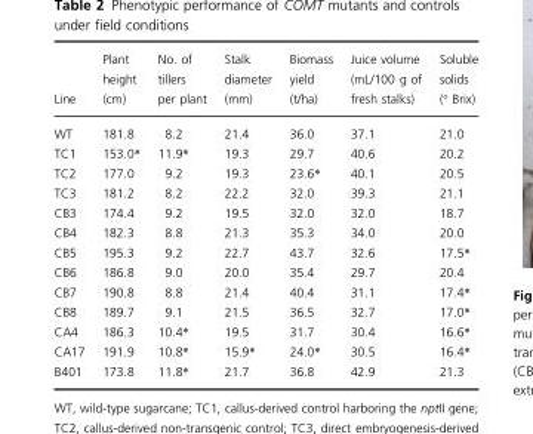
<table><thead><tr><td>Line</td><td>Plant height (cm)</td><td>No. of tillers per plant</td><td>Stalk diameter (mm)</td><td>Biomass yield (t/ha)</td><td>Juice volume (mL/100 g of fresh stalks)</td><td>Soluble solids (° Brix)</td></tr></thead><tbody><tr><td>WT</td><td>181.8</td><td>8.2</td><td>21.4</td><td>36.0</td><td>37.1</td><td>21.0</td></tr><tr><td>TC1</td><td>153.0*</td><td>11.9*</td><td>19.3</td><td>29.7</td><td>40.6</td><td>20.2</td></tr><tr><td>TC2</td><td>177.0</td><td>9.2</td><td>19.3</td><td>23.6*</td><td>40.1</td><td>20.5</td></tr><tr><td>TC3</td><td>181.2</td><td>8.2</td><td>22.2</td><td>32.0</td><td>39.3</td><td>21.1</td></tr><tr><td>CB3</td><td>174.4</td><td>9.2</td><td>19.5</td><td>32.0</td><td>32.0</td><td>18.7</td></tr><tr><td>CB4</td><td>182.3</td><td>8.8</td><td>21.3</td><td>35.3</td><td>34.0</td><td>20.0</td></tr><tr><td>CB5</td><td>195.3</td><td>9.2</td><td>22.7</td><td>43.7</td><td>32.6</td><td>17.5*</td></tr><tr><td>CB6</td><td>186.8</td><td>9.0</td><td>20.0</td><td>35.4</td><td>29.7</td><td>20.4</td></tr><tr><td>CB7</td><td>190.8</td><td>8.8</td><td>21.4</td><td>40.4</td><td>31.1</td><td>17.4*</td></tr><tr><td>CB8</td><td>189.7</td><td>9.1</td><td>21.5</td><td>36.5</td><td>32.7</td><td>17.0*</td></tr><tr><td>CA4</td><td>186.3</td><td>10.4*</td><td>19.5</td><td>31.7</td><td>30.4</td><td>16.6*</td></tr><tr><td>CA17</td><td>191.9</td><td>10.8*</td><td>15.9*</td><td>24.0*</td><td>30.5</td><td>16.4*</td></tr><tr><td>B401</td><td>173.8</td><td>11.8*</td><td>21.7</td><td>36.8</td><td>42.9</td><td>21.3</td></tr></tbody></table>